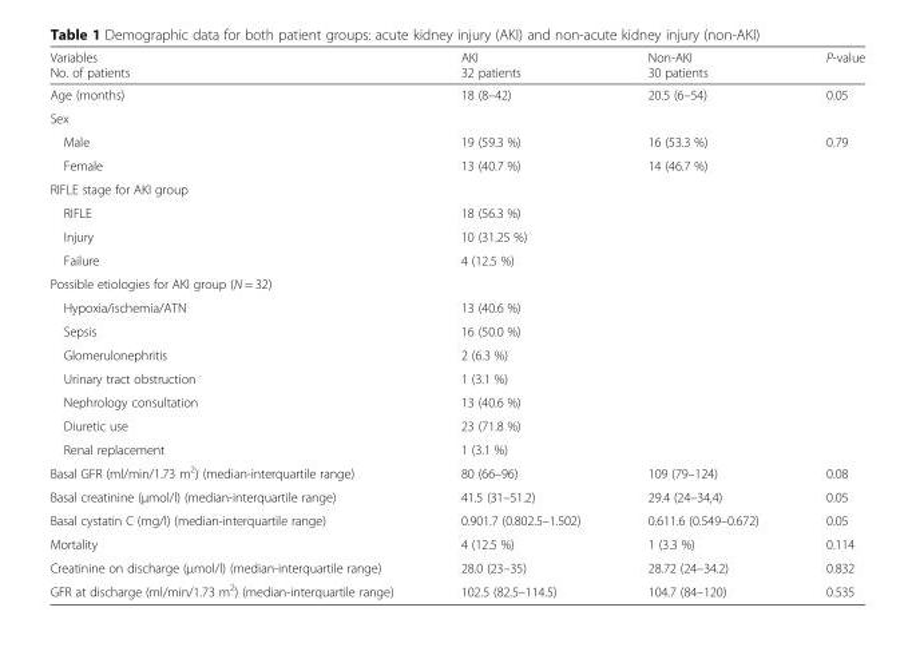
<table><thead><tr><td>Variables No. of patients</td><td>AKI 32 patients</td><td>Non-AKI 30 patients</td><td>P-value</td></tr></thead><tbody><tr><td>Age (months)</td><td>18 (8–42)</td><td>20.5 (6–54)</td><td>0.05</td></tr><tr><td colspan="4">Sex</td></tr><tr><td>Male</td><td>19 (59.3 %)</td><td>16 (53.3 %)</td><td rowspan="2">0.79</td></tr><tr><td>Female</td><td>13 (40.7 %)</td><td>14 (46.7 %)</td></tr><tr><td colspan="4">RIFLE stage for AKI group</td></tr><tr><td>RIFLE</td><td>18 (56.3 %)</td><td></td><td></td></tr><tr><td>Injury</td><td>10 (31.25 %)</td><td></td><td></td></tr><tr><td>Failure</td><td>4 (12.5 %)</td><td></td><td></td></tr><tr><td colspan="4">Possible etiologies for AKI group (N = 32)</td></tr><tr><td>Hypoxia/ischemia/ATN</td><td>13 (40.6 %)</td><td></td><td></td></tr><tr><td>Sepsis</td><td>16 (50.0 %)</td><td></td><td></td></tr><tr><td>Glomerulonephritis</td><td>2 (6.3 %)</td><td></td><td></td></tr><tr><td>Urinary tract obstruction</td><td>1 (3.1 %)</td><td></td><td></td></tr><tr><td>Nephrology consultation</td><td>13 (40.6 %)</td><td></td><td></td></tr><tr><td>Diuretic use</td><td>23 (71.8 %)</td><td></td><td></td></tr><tr><td>Renal replacement</td><td>1 (3.1 %)</td><td></td><td></td></tr><tr><td>Basal GFR (ml/min/1.73 m<sup>2</sup>) (median-interquartile range)</td><td>80 (66–96)</td><td>109 (79–124)</td><td>0.08</td></tr><tr><td>Basal creatinine (μmol/l) (median-interquartile range)</td><td>41.5 (31–51.2)</td><td>29.4 (24–34,4)</td><td>0.05</td></tr><tr><td>Basal cystatin C (mg/l) (median-interquartile range)</td><td>0.901.7 (0.802.5–1.502)</td><td>0.611.6 (0.549–0.672)</td><td>0.05</td></tr><tr><td>Mortality</td><td>4 (12.5 %)</td><td>1 (3.3 %)</td><td>0.114</td></tr><tr><td>Creatinine on discharge (μmol/l) (median-interquartile range)</td><td>28.0 (23–35)</td><td>28.72 (24–34.2)</td><td>0.832</td></tr><tr><td>GFR at discharge (ml/min/1.73 m<sup>2</sup>) (median-interquartile range)</td><td>102.5 (82.5–114.5)</td><td>104.7 (84–120)</td><td>0.535</td></tr></tbody></table>